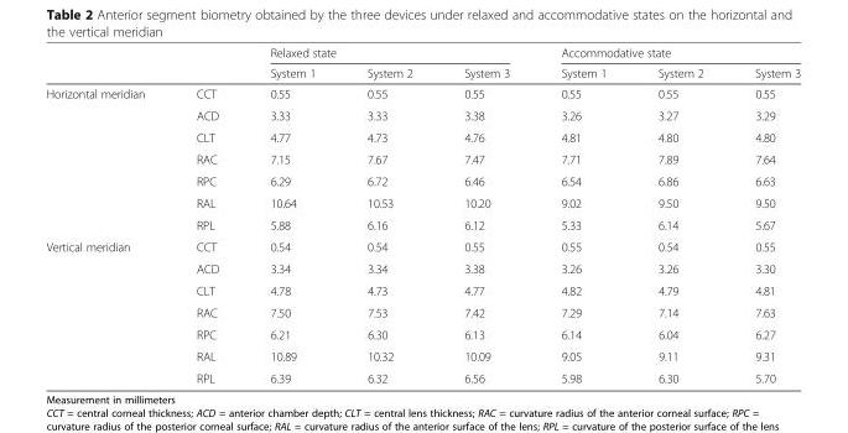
<table><thead><tr><td rowspan="2"></td><td rowspan="2"></td><td colspan="3">Relaxed state</td><td colspan="3">Accommodative state</td></tr><tr><td>System 1</td><td>System 2</td><td>System 3</td><td>System 1</td><td>System 2</td><td>System 3</td></tr></thead><tbody><tr><td rowspan="7">Horizontal meridian</td><td>CCT</td><td>0.55</td><td>0.55</td><td>0.55</td><td>0.55</td><td>0.55</td><td>0.55</td></tr><tr><td>ACD</td><td>3.33</td><td>3.33</td><td>3.38</td><td>3.26</td><td>3.27</td><td>3.29</td></tr><tr><td>CLT</td><td>4.77</td><td>4.73</td><td>4.76</td><td>4.81</td><td>4.80</td><td>4.80</td></tr><tr><td>RAC</td><td>7.15</td><td>7.67</td><td>7.47</td><td>7.71</td><td>7.89</td><td>7.64</td></tr><tr><td>RPC</td><td>6.29</td><td>6.72</td><td>6.46</td><td>6.54</td><td>6.86</td><td>6.63</td></tr><tr><td>RAL</td><td>10.64</td><td>10.53</td><td>10.20</td><td>9.02</td><td>9.50</td><td>9.50</td></tr><tr><td>RPL</td><td>5.88</td><td>6.16</td><td>6.12</td><td>5.33</td><td>6.14</td><td>5.67</td></tr><tr><td rowspan="7">Vertical meridian</td><td>CCT</td><td>0.54</td><td>0.54</td><td>0.55</td><td>0.55</td><td>0.54</td><td>0.55</td></tr><tr><td>ACD</td><td>3.34</td><td>3.34</td><td>3.38</td><td>3.26</td><td>3.26</td><td>3.30</td></tr><tr><td>CLT</td><td>4.78</td><td>4.73</td><td>4.77</td><td>4.82</td><td>4.79</td><td>4.81</td></tr><tr><td>RAC</td><td>7.50</td><td>7.53</td><td>7.42</td><td>7.29</td><td>7.14</td><td>7.63</td></tr><tr><td>RPC</td><td>6.21</td><td>6.30</td><td>6.13</td><td>6.14</td><td>6.04</td><td>6.27</td></tr><tr><td>RAL</td><td>10.89</td><td>10.32</td><td>10.09</td><td>9.05</td><td>9.11</td><td>9.31</td></tr><tr><td>RPL</td><td>6.39</td><td>6.32</td><td>6.56</td><td>5.98</td><td>6.30</td><td>5.70</td></tr></tbody></table>